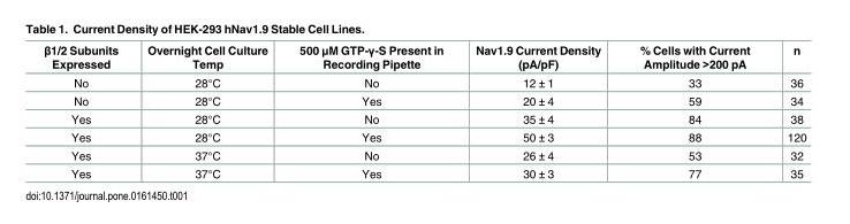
<table><thead><tr><td>β1/2 Subunits Expressed</td><td>Overnight Cell Culture Temp</td><td>500 μM GTP-γ-S Present in Recording Pipette</td><td>Nav1.9 Current Density (pA/pF)</td><td>% Cells with Current Amplitude &gt;200 pA</td><td>n</td></tr></thead><tbody><tr><td>No</td><td>28°C</td><td>No</td><td>12 ± 1</td><td>33</td><td>36</td></tr><tr><td>No</td><td>28°C</td><td>Yes</td><td>20 ± 4</td><td>59</td><td>34</td></tr><tr><td>Yes</td><td>28°C</td><td>No</td><td>35 ± 4</td><td>84</td><td>38</td></tr><tr><td>Yes</td><td>28°C</td><td>Yes</td><td>50 ± 3</td><td>88</td><td>120</td></tr><tr><td>Yes</td><td>37°C</td><td>No</td><td>26 ± 4</td><td>53</td><td>32</td></tr><tr><td>Yes</td><td>37°C</td><td>Yes</td><td>30 ± 3</td><td>77</td><td>35</td></tr></tbody></table>